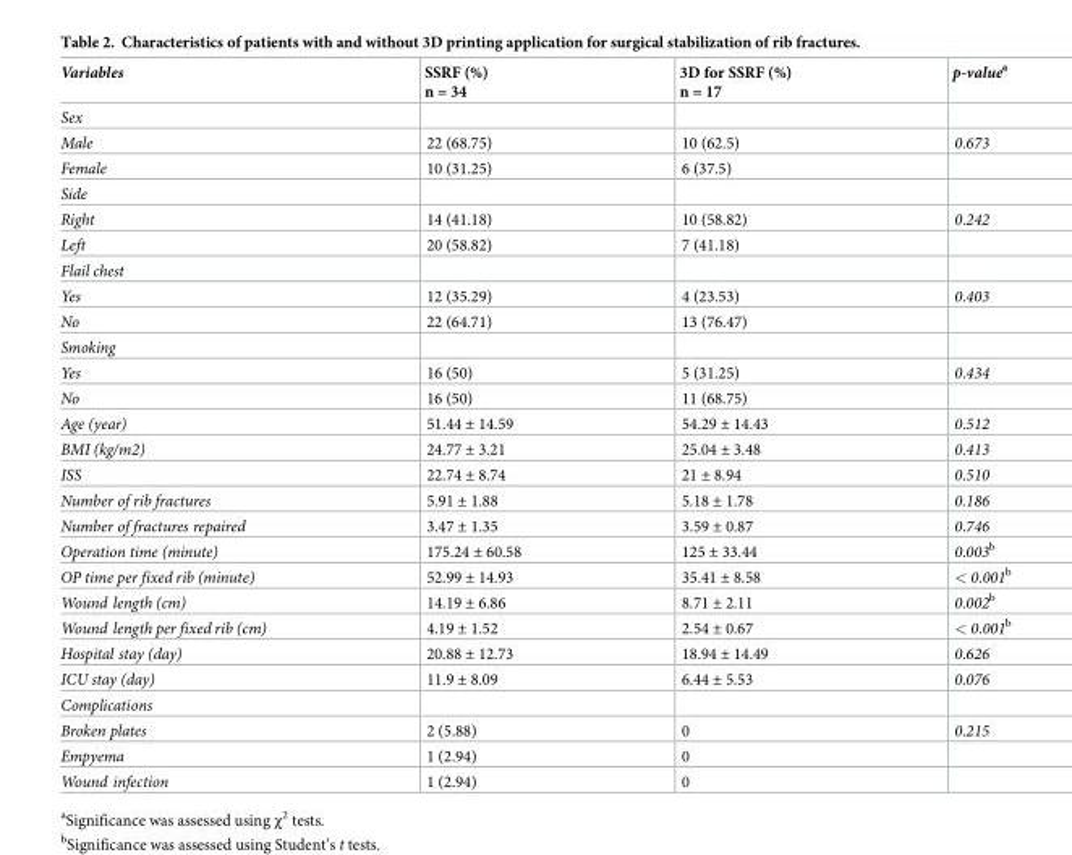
<table><thead><tr><td>Variables</td><td>SSRF (%) n = 34</td><td>3D for SSRF (%) n = 17</td><td>p-value<sup>a</sup></td></tr></thead><tbody><tr><td colspan="4">Sex</td></tr><tr><td>Male</td><td>22 (68.75)</td><td>10 (62.5)</td><td>0.673</td></tr><tr><td>Female</td><td>10 (31.25)</td><td>6 (37.5)</td><td></td></tr><tr><td colspan="4">Side</td></tr><tr><td>Right</td><td>14 (41.18)</td><td>10 (58.82)</td><td>0.242</td></tr><tr><td>Left</td><td>20 (58.82)</td><td>7 (41.18)</td><td></td></tr><tr><td colspan="4">Flail chest</td></tr><tr><td>Yes</td><td>12 (35.29)</td><td>4 (23.53)</td><td>0.403</td></tr><tr><td>No</td><td>22 (64.71)</td><td>13 (76.47)</td><td></td></tr><tr><td colspan="4">Smoking</td></tr><tr><td>Yes</td><td>16 (50)</td><td>5 (31.25)</td><td>0.434</td></tr><tr><td>No</td><td>16 (50)</td><td>11 (68.75)</td><td></td></tr><tr><td>Age (year)</td><td>51.44 ± 14.59</td><td>54.29 ± 14.43</td><td>0.512</td></tr><tr><td>BMI (kg/m2)</td><td>24.77 ± 3.21</td><td>25.04 ± 3.48</td><td>0.413</td></tr><tr><td>ISS</td><td>22.74 ± 8.74</td><td>21 ± 8.94</td><td>0.510</td></tr><tr><td>Number of rib fractures</td><td>5.91 ± 1.88</td><td>5.18 ± 1.78</td><td>0.186</td></tr><tr><td>Number of fractures repaired</td><td>3.47 ± 1.35</td><td>3.59 ± 0.87</td><td>0.746</td></tr><tr><td>Operation time (minute)</td><td>175.24 ± 60.58</td><td>125 ± 33.44</td><td>0.003<sup>b</sup></td></tr><tr><td>OP time per fixed rib (minute)</td><td>52.99 ± 14.93</td><td>35.41 ± 8.58</td><td>&lt; 0.001<sup>b</sup></td></tr><tr><td>Wound length (cm)</td><td>14.19 ± 6.86</td><td>8.71 ± 2.11</td><td>0.002<sup>b</sup></td></tr><tr><td>Wound length per fixed rib (cm)</td><td>4.19 ± 1.52</td><td>2.54 ± 0.67</td><td>&lt; 0.001<sup>b</sup></td></tr><tr><td>Hospital stay (day)</td><td>20.88 ± 12.73</td><td>18.94 ± 14.49</td><td>0.626</td></tr><tr><td>ICU stay (day)</td><td>11.9 ± 8.09</td><td>6.44 ± 5.53</td><td>0.076</td></tr><tr><td colspan="4">Complications</td></tr><tr><td>Broken plates</td><td>2 (5.88)</td><td>0</td><td>0.215</td></tr><tr><td>Empyema</td><td>1 (2.94)</td><td>0</td><td></td></tr><tr><td>Wound infection</td><td>1 (2.94)</td><td>0</td><td></td></tr></tbody></table>